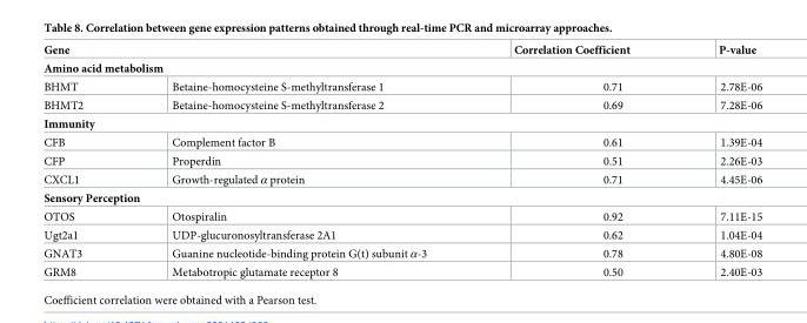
<table><thead><tr><td colspan="2">Gene</td><td>Correlation Coefficient</td><td>P-value</td></tr><tr><td colspan="4">Amino acid metabolism</td></tr><tr><td>BHMT</td><td>Betaine-homocysteine S-methyltransferase 1</td><td>0.71</td><td>2.78E-06</td></tr></thead><tbody><tr><td>BHMT2</td><td>Betaine-homocysteine S-methyltransferase 2</td><td>0.69</td><td>7.28E-06</td></tr><tr><td colspan="4">Immunity</td></tr><tr><td>CFB</td><td>Complement factor B</td><td>0.61</td><td>1.39E-04</td></tr><tr><td>CFP</td><td>Properdin</td><td>0.51</td><td>2.26E-03</td></tr><tr><td>CXCL1</td><td>Growth-regulated α protein</td><td>0.71</td><td>4.45E-06</td></tr><tr><td colspan="4">Sensory Perception</td></tr><tr><td>OTOS</td><td>Otospiralin</td><td>0.92</td><td>7.11E-15</td></tr><tr><td>Ugt2a1</td><td>UDP-glucuronosyltransferase 2A1</td><td>0.62</td><td>1.04E-04</td></tr><tr><td>GNAT3</td><td>Guanine nucleotide-binding protein G(t) subunit α-3</td><td>0.78</td><td>4.80E-08</td></tr><tr><td>GRM8</td><td>Metabotropic glutamate receptor 8</td><td>0.50</td><td>2.40E-03</td></tr></tbody></table>